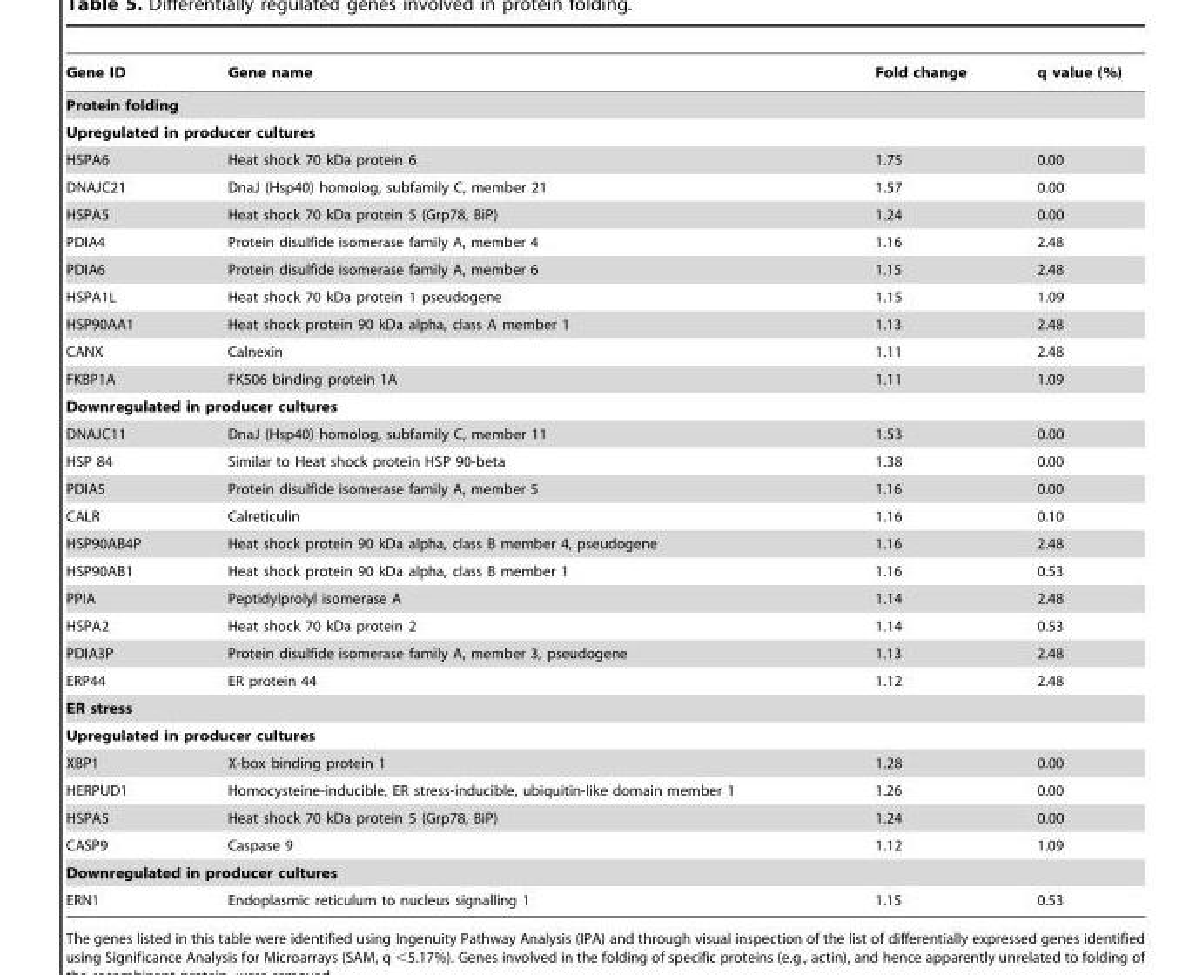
<table><thead><tr><td>Gene ID</td><td>Gene name</td><td>Fold change</td><td>q value (%)</td></tr></thead><tbody><tr><td colspan="4">Protein folding</td></tr><tr><td colspan="4">Upregulated in producer cultures</td></tr><tr><td>HSPA6</td><td>Heat shock 70 kDa protein 6</td><td>1.75</td><td>0.00</td></tr><tr><td>DNAJC21</td><td>DnaJ (Hsp40) homolog, subfamily C, member 21</td><td>1.57</td><td>0.00</td></tr><tr><td>HSPA5</td><td>Heat shock 70 kDa protein 5 (Grp78, BiP)</td><td>1.24</td><td>0.00</td></tr><tr><td>PDIA4</td><td>Protein disulfide isomerase family A, member 4</td><td>1.16</td><td>2.48</td></tr><tr><td>PDIA6</td><td>Protein disulfide isomerase family A, member 6</td><td>1.15</td><td>2.48</td></tr><tr><td>HSPA1L</td><td>Heat shock 70 kDa protein 1 pseudogene</td><td>1.15</td><td>1.09</td></tr><tr><td>HSP90AA1</td><td>Heat shock protein 90 kDa alpha, class A member 1</td><td>1.13</td><td>2.48</td></tr><tr><td>CANX</td><td>Calnexin</td><td>1.11</td><td>2.48</td></tr><tr><td>FKBP1A</td><td>FK506 binding protein 1A</td><td>1.11</td><td>1.09</td></tr><tr><td colspan="4">Downregulated in producer cultures</td></tr><tr><td>DNAJC11</td><td>DnaJ (Hsp40) homolog, subfamily C, member 11</td><td>1.53</td><td>0.00</td></tr><tr><td>HSP 84</td><td>Similar to Heat shock protein HSP 90-beta</td><td>1.38</td><td>0.00</td></tr><tr><td>PDIA5</td><td>Protein disulfide isomerase family A, member 5</td><td>1.16</td><td>0.00</td></tr><tr><td>CALR</td><td>Calreticulin</td><td>1.16</td><td>0.10</td></tr><tr><td>HSP90AB4P</td><td>Heat shock protein 90 kDa alpha, class B member 4, pseudogene</td><td>1.16</td><td>2.48</td></tr><tr><td>HSP90AB1</td><td>Heat shock protein 90 kDa alpha, class B member 1</td><td>1.16</td><td>0.53</td></tr><tr><td>PPIA</td><td>Peptidylprolyl isomerase A</td><td>1.14</td><td>2.48</td></tr><tr><td>HSPA2</td><td>Heat shock 70 kDa protein 2</td><td>1.14</td><td>0.53</td></tr><tr><td>PDIA3P</td><td>Protein disulfide isomerase family A, member 3, pseudogene</td><td>1.13</td><td>2.48</td></tr><tr><td>ERP44</td><td>ER protein 44</td><td>1.12</td><td>2.48</td></tr><tr><td colspan="4">ER stress</td></tr><tr><td colspan="4">Upregulated in producer cultures</td></tr><tr><td>XBP1</td><td>X-box binding protein 1</td><td>1.28</td><td>0.00</td></tr><tr><td>HERPUD1</td><td>Homocysteine-inducible, ER stress-inducible, ubiquitin-like domain member 1</td><td>1.26</td><td>0.00</td></tr><tr><td>HSPA5</td><td>Heat shock 70 kDa protein 5 (Grp78, BiP)</td><td>1.24</td><td>0.00</td></tr><tr><td>CASP9</td><td>Caspase 9</td><td>1.12</td><td>1.09</td></tr><tr><td colspan="4">Downregulated in producer cultures</td></tr><tr><td>ERN1</td><td>Endoplasmic reticulum to nucleus signalling 1</td><td>1.15</td><td>0.53</td></tr></tbody></table>